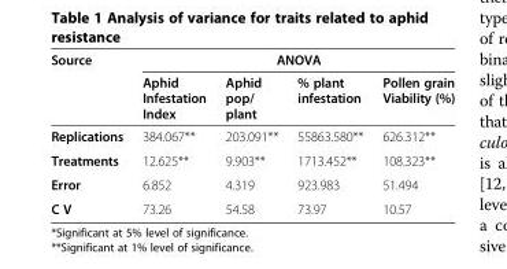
<table><thead><tr><td rowspan="2">Source</td><td colspan="4">ANOVA</td></tr><tr><td>Aphid Infestation Index</td><td>Aphid pop/ plant</td><td>% plant infestation</td><td>Pollen grain Viability (%)</td></tr></thead><tbody><tr><td>Replications</td><td>384.067**</td><td>203.091**</td><td>55863.580**</td><td>626.312**</td></tr><tr><td>Treatments</td><td>12.625**</td><td>9.903**</td><td>1713.452**</td><td>108.323**</td></tr><tr><td>Error</td><td>6.852</td><td>4.319</td><td>923.983</td><td>51.494</td></tr><tr><td>C V</td><td>73.26</td><td>54.58</td><td>73.97</td><td>10.57</td></tr></tbody></table>